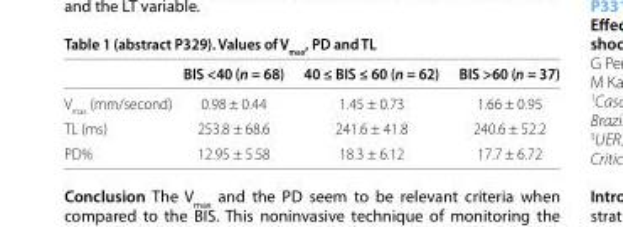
<table><thead><tr><td></td><td>BIS &lt;40 (n = 68)</td><td>40 ≤ BIS ≤ 60 (n = 62)</td><td>BIS &gt;60 (n = 37)</td></tr></thead><tbody><tr><td>V<sub>max</sub> (mm/second)</td><td>0.98 ± 0.44</td><td>1.45 ± 0.73</td><td>1.66 ± 0.95</td></tr><tr><td>TL (ms)</td><td>253.8 ± 68.6</td><td>241.6 ± 41.8</td><td>240.6 ± 52.2</td></tr><tr><td>PD%</td><td>12.95 ± 5.58</td><td>18.3 ± 6.12</td><td>17.7 ± 6.72</td></tr></tbody></table>